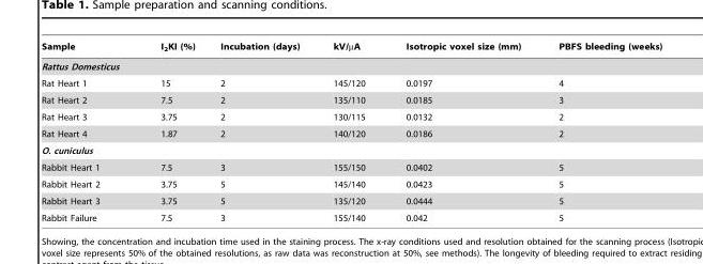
<table><thead><tr><td>Sample</td><td>I<sub>2</sub>KI (%)</td><td>Incubation (days)</td><td>kV/µA</td><td>Isotropic voxel size (mm)</td><td>PBFS bleeding (weeks)</td></tr></thead><tbody><tr><td colspan="6">Rattus Domesticus</td></tr><tr><td>Rat Heart 1</td><td>15</td><td>2</td><td>145/120</td><td>0.0197</td><td>4</td></tr><tr><td>Rat Heart 2</td><td>7.5</td><td>2</td><td>135/110</td><td>0.0185</td><td>3</td></tr><tr><td>Rat Heart 3</td><td>3.75</td><td>2</td><td>130/115</td><td>0.0132</td><td>2</td></tr><tr><td>Rat Heart 4</td><td>1.87</td><td>2</td><td>140/120</td><td>0.0186</td><td>2</td></tr><tr><td colspan="6">O. cuniculus</td></tr><tr><td>Rabbit Heart 1</td><td>7.5</td><td>3</td><td>155/150</td><td>0.0402</td><td>5</td></tr><tr><td>Rabbit Heart 2</td><td>3.75</td><td>5</td><td>145/140</td><td>0.0423</td><td>5</td></tr><tr><td>Rabbit Heart 3</td><td>3.75</td><td>5</td><td>135/120</td><td>0.0444</td><td>5</td></tr><tr><td>Rabbit Failure</td><td>7.5</td><td>3</td><td>155/140</td><td>0.042</td><td>5</td></tr></tbody></table>